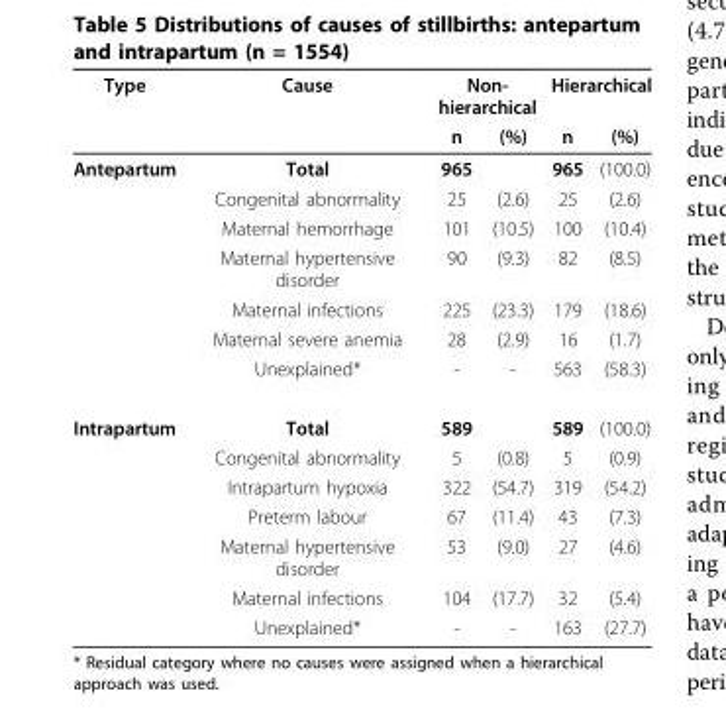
<table><thead><tr><td rowspan="2">Type</td><td rowspan="2">Cause</td><td colspan="2">Non- hierarchical</td><td colspan="2">Hierarchical</td></tr><tr><td>n</td><td>(%)</td><td>n</td><td>(%)</td></tr></thead><tbody><tr><td rowspan="7">Antepartum</td><td>Total</td><td>965</td><td></td><td>965</td><td>(100.0)</td></tr><tr><td>Congenital abnormality</td><td>25</td><td>(2.6)</td><td>25</td><td>(2.6)</td></tr><tr><td>Maternal hemorrhage</td><td>101</td><td>(10.5)</td><td>100</td><td>(10.4)</td></tr><tr><td>Maternal hypertensive disorder</td><td>90</td><td>(9.3)</td><td>82</td><td>(8.5)</td></tr><tr><td>Maternal infections</td><td>225</td><td>(23.3)</td><td>179</td><td>(18.6)</td></tr><tr><td>Maternal severe anemia</td><td>28</td><td>(2.9)</td><td>16</td><td>(1.7)</td></tr><tr><td>Unexplained*</td><td>-</td><td>-</td><td>563</td><td>(58.3)</td></tr><tr><td rowspan="7">Intrapartum</td><td>Total</td><td>589</td><td></td><td>589</td><td>(100.0)</td></tr><tr><td>Congenital abnormality</td><td>5</td><td>(0.8)</td><td>5</td><td>(0.9)</td></tr><tr><td>Intrapartum hypoxia</td><td>322</td><td>(54.7)</td><td>319</td><td>(54.2)</td></tr><tr><td>Preterm labour</td><td>67</td><td>(11.4)</td><td>43</td><td>(7.3)</td></tr><tr><td>Maternal hypertensive disorder</td><td>53</td><td>(9.0)</td><td>27</td><td>(4.6)</td></tr><tr><td>Maternal infections</td><td>104</td><td>(17.7)</td><td>32</td><td>(5.4)</td></tr><tr><td>Unexplained*</td><td>-</td><td>-</td><td>163</td><td>(27.7)</td></tr></tbody></table>